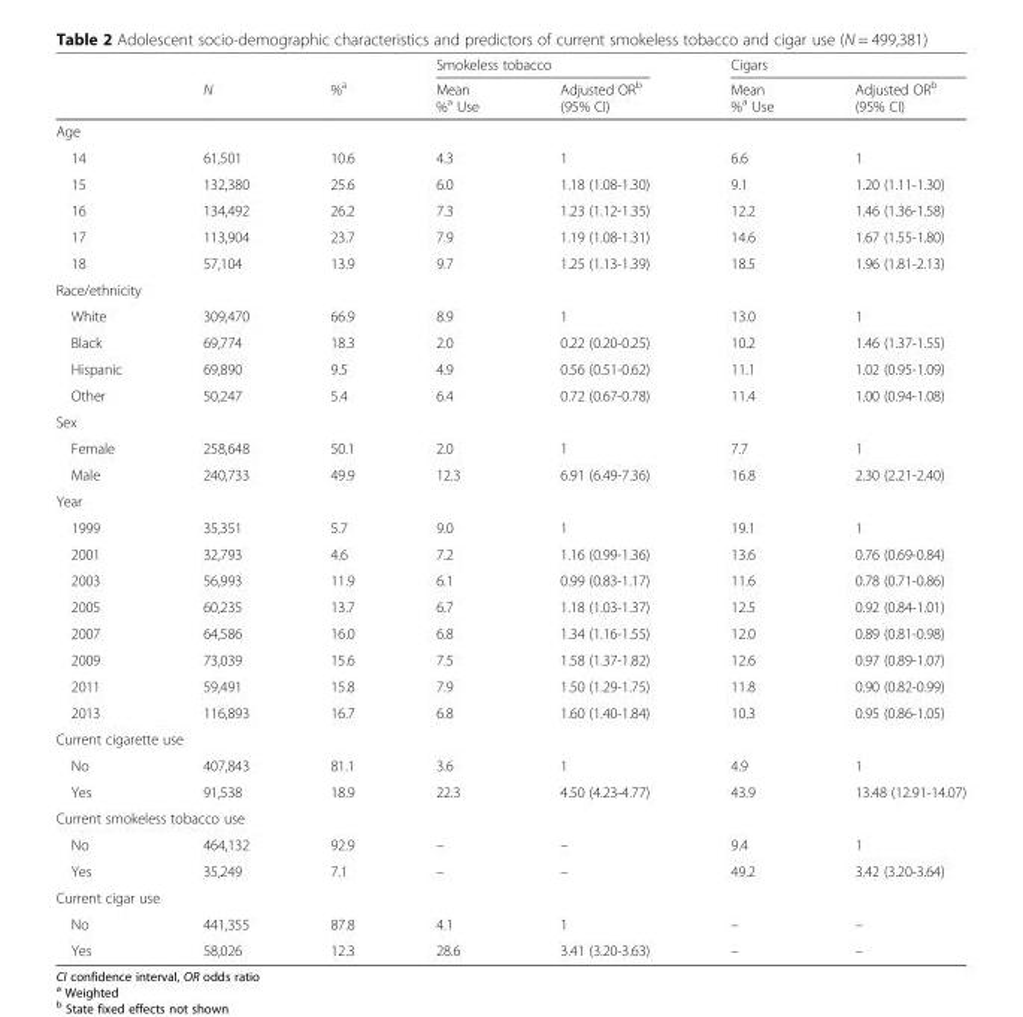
<table><thead><tr><td rowspan="2"></td><td rowspan="2">N</td><td rowspan="2">%<sup>a</sup></td><td colspan="2">Smokeless tobacco</td><td colspan="2">Cigars</td></tr><tr><td>Mean %<sup>a</sup> Use</td><td>Adjusted OR<sup>b</sup> (95% CI)</td><td>Mean %<sup>a</sup> Use</td><td>Adjusted OR<sup>b</sup> (95% CI)</td></tr></thead><tbody><tr><td colspan="7">Age</td></tr><tr><td>14</td><td>61,501</td><td>10.6</td><td>4.3</td><td>1</td><td>6.6</td><td>1</td></tr><tr><td>15</td><td>132,380</td><td>25.6</td><td>6.0</td><td>1.18 (1.08-1.30)</td><td>9.1</td><td>1.20 (1.11-1.30)</td></tr><tr><td>16</td><td>134,492</td><td>26.2</td><td>7.3</td><td>1.23 (1.12-1.35)</td><td>12.2</td><td>1.46 (1.36-1.58)</td></tr><tr><td>17</td><td>113,904</td><td>23.7</td><td>7.9</td><td>1.19 (1.08-1.31)</td><td>14.6</td><td>1.67 (1.55-1.80)</td></tr><tr><td>18</td><td>57,104</td><td>13.9</td><td>9.7</td><td>1.25 (1.13-1.39)</td><td>18.5</td><td>1.96 (1.81-2.13)</td></tr><tr><td colspan="7">Race/ethnicity</td></tr><tr><td>White</td><td>309,470</td><td>66.9</td><td>8.9</td><td>1</td><td>13.0</td><td>1</td></tr><tr><td>Black</td><td>69,774</td><td>18.3</td><td>2.0</td><td>0.22 (0.20-0.25)</td><td>10.2</td><td>1.46 (1.37-1.55)</td></tr><tr><td>Hispanic</td><td>69,890</td><td>9.5</td><td>4.9</td><td>0.56 (0.51-0.62)</td><td>11.1</td><td>1.02 (0.95-1.09)</td></tr><tr><td>Other</td><td>50,247</td><td>5.4</td><td>6.4</td><td>0.72 (0.67-0.78)</td><td>11.4</td><td>1.00 (0.94-1.08)</td></tr><tr><td colspan="7">Sex</td></tr><tr><td>Female</td><td>258,648</td><td>50.1</td><td>2.0</td><td>1</td><td>7.7</td><td>1</td></tr><tr><td>Male</td><td>240,733</td><td>49.9</td><td>12.3</td><td>6.91 (6.49-7.36)</td><td>16.8</td><td>2.30 (2.21-2.40)</td></tr><tr><td colspan="7">Year</td></tr><tr><td>1999</td><td>35,351</td><td>5.7</td><td>9.0</td><td>1</td><td>19.1</td><td>1</td></tr><tr><td>2001</td><td>32,793</td><td>4.6</td><td>7.2</td><td>1.16 (0.99-1.36)</td><td>13.6</td><td>0.76 (0.69-0.84)</td></tr><tr><td>2003</td><td>56,993</td><td>11.9</td><td>6.1</td><td>0.99 (0.83-1.17)</td><td>11.6</td><td>0.78 (0.71-0.86)</td></tr><tr><td>2005</td><td>60,235</td><td>13.7</td><td>6.7</td><td>1.18 (1.03-1.37)</td><td>12.5</td><td>0.92 (0.84-1.01)</td></tr><tr><td>2007</td><td>64,586</td><td>16.0</td><td>6.8</td><td>1.34 (1.16-1.55)</td><td>12.0</td><td>0.89 (0.81-0.98)</td></tr><tr><td>2009</td><td>73,039</td><td>15.6</td><td>7.5</td><td>1.58 (1.37-1.82)</td><td>12.6</td><td>0.97 (0.89-1.07)</td></tr><tr><td>2011</td><td>59,491</td><td>15.8</td><td>7.9</td><td>1.50 (1.29-1.75)</td><td>11.8</td><td>0.90 (0.82-0.99)</td></tr><tr><td>2013</td><td>116,893</td><td>16.7</td><td>6.8</td><td>1.60 (1.40-1.84)</td><td>10.3</td><td>0.95 (0.86-1.05)</td></tr><tr><td colspan="7">Current cigarette use</td></tr><tr><td>No</td><td>407,843</td><td>81.1</td><td>3.6</td><td>1</td><td>4.9</td><td>1</td></tr><tr><td>Yes</td><td>91,538</td><td>18.9</td><td>22.3</td><td>4.50 (4.23-4.77)</td><td>43.9</td><td>13.48 (12.91-14.07)</td></tr><tr><td colspan="7">Current smokeless tobacco use</td></tr><tr><td>No</td><td>464,132</td><td>92.9</td><td>–</td><td>–</td><td>9.4</td><td>1</td></tr><tr><td>Yes</td><td>35,249</td><td>7.1</td><td>–</td><td>–</td><td>49.2</td><td>3.42 (3.20-3.64)</td></tr><tr><td colspan="7">Current cigar use</td></tr><tr><td>No</td><td>441,355</td><td>87.8</td><td>4.1</td><td>1</td><td>–</td><td>–</td></tr><tr><td>Yes</td><td>58,026</td><td>12.3</td><td>28.6</td><td>3.41 (3.20-3.63)</td><td>–</td><td>–</td></tr></tbody></table>